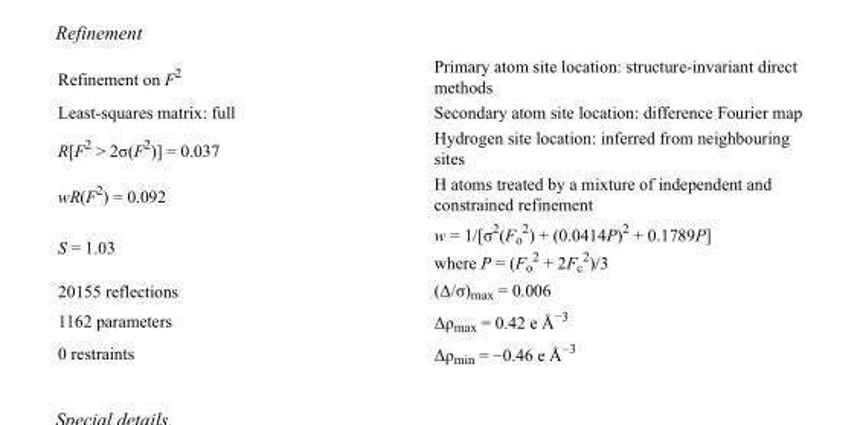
<table><tbody><tr><td>Refinement on F<sup>2</sup></td><td>Primary atom site location: structure-invariant direct methods</td></tr><tr><td>Least-squares matrix: full</td><td>Secondary atom site location: difference Fourier map</td></tr><tr><td>R[F<sup>2</sup> &gt; 2σ(F<sup>2</sup>)] = 0.037</td><td>Hydrogen site location: inferred from neighbouring sites</td></tr><tr><td>wR(F<sup>2</sup>) = 0.092</td><td>H atoms treated by a mixture of independent and constrained refinement</td></tr><tr><td>S = 1.03</td><td>w = 1/[σ<sup>2</sup>(F<sub>o</sub> <sup>2</sup>) + (0.0414P)<sup>2</sup> + 0.1789P] where P = (F<sub>o</sub> <sup>2</sup> + 2F<sub>c</sub> <sup>2</sup>)/3</td></tr><tr><td>20155 reflections</td><td>(Δ/σ)<sub>max</sub> = 0.006</td></tr><tr><td>1162 parameters</td><td>Δρ<sub>max</sub> = 0.42 e Å<sup>−3</sup></td></tr><tr><td>0 restraints</td><td>Δρ<sub>min</sub> = −0.46 e Å<sup>−3</sup></td></tr></tbody></table>